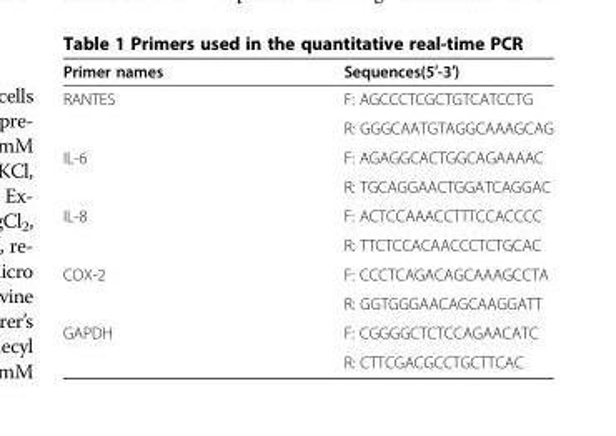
<table><thead><tr><td>Primer names</td><td>Sequences(5′-3′)</td></tr></thead><tbody><tr><td rowspan="2">RANTES</td><td>F: AGCCCTCGCTGTCATCCTG</td></tr><tr><td>R: GGGCAATGTAGGCAAAGCAG</td></tr><tr><td rowspan="2">IL-6</td><td>F: AGAGGCACTGGCAGAAAAC</td></tr><tr><td>R: TGCAGGAACTGGATCAGGAC</td></tr><tr><td rowspan="2">IL-8</td><td>F: ACTCCAAACCTTTCCACCCC</td></tr><tr><td>R: TTCTCCACAACCCTCTGCAC</td></tr><tr><td rowspan="2">COX-2</td><td>F: CCCTCAGACAGCAAAGCCTA</td></tr><tr><td>R: GGTGGGAACAGCAAGGATT</td></tr><tr><td rowspan="2">GAPDH</td><td>F: CGGGGCTCTCCAGAACATC</td></tr><tr><td>R: CTTCGACGCCTGCTTCAC</td></tr></tbody></table>